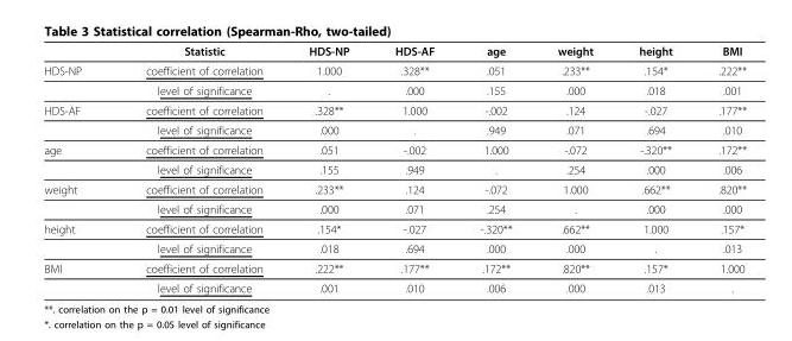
<table><thead><tr><td></td><td>Statistic</td><td>HDS-NP</td><td>HDS-AF</td><td>age</td><td>weight</td><td>height</td><td>BMI</td></tr></thead><tbody><tr><td rowspan="2">HDS-NP</td><td>coefficient of correlation</td><td>1.000</td><td>.328**</td><td>.051</td><td>.233**</td><td>.154*</td><td>.222**</td></tr><tr><td>level of significance</td><td>.</td><td>.000</td><td>.155</td><td>.000</td><td>.018</td><td>.001</td></tr><tr><td rowspan="2">HDS-AF</td><td>coefficient of correlation</td><td>.328**</td><td>1.000</td><td>-.002</td><td>.124</td><td>-.027</td><td>.177**</td></tr><tr><td>level of significance</td><td>.000</td><td>.</td><td>.949</td><td>.071</td><td>.694</td><td>.010</td></tr><tr><td rowspan="2">age</td><td>coefficient of correlation</td><td>.051</td><td>-.002</td><td>1.000</td><td>-.072</td><td>-.320**</td><td>.172**</td></tr><tr><td>level of significance</td><td>.155</td><td>.949</td><td>.</td><td>.254</td><td>.000</td><td>.006</td></tr><tr><td rowspan="2">weight</td><td>coefficient of correlation</td><td>.233**</td><td>.124</td><td>-.072</td><td>1.000</td><td>.662**</td><td>.820**</td></tr><tr><td>level of significance</td><td>.000</td><td>.071</td><td>.254</td><td>.</td><td>.000</td><td>.000</td></tr><tr><td rowspan="2">height</td><td>coefficient of correlation</td><td>.154*</td><td>-.027</td><td>-.320**</td><td>.662**</td><td>1.000</td><td>.157*</td></tr><tr><td>level of significance</td><td>.018</td><td>.694</td><td>.000</td><td>.000</td><td>.</td><td>.013</td></tr><tr><td rowspan="2">BMI</td><td>coefficient of correlation</td><td>.222**</td><td>.177**</td><td>.172**</td><td>.820**</td><td>.157*</td><td>1.000</td></tr><tr><td>level of significance</td><td>.001</td><td>.010</td><td>.006</td><td>.000</td><td>.013</td><td>.</td></tr></tbody></table>